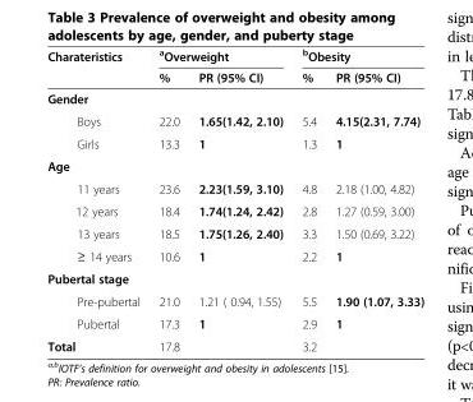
<table><thead><tr><td rowspan="2">Charateristics</td><td colspan="2"><sup>a</sup>Overweight</td><td colspan="2"><sup>b</sup>Obesity</td></tr><tr><td>%</td><td>PR (95% CI)</td><td>%</td><td>PR (95% CI)</td></tr></thead><tbody><tr><td colspan="5">Gender</td></tr><tr><td>Boys</td><td>22.0</td><td>1.65(1.42, 2.10)</td><td>5.4</td><td>4.15(2.31, 7.74)</td></tr><tr><td>Girls</td><td>13.3</td><td>1</td><td>1.3</td><td>1</td></tr><tr><td colspan="5">Age</td></tr><tr><td>11 years</td><td>23.6</td><td>2.23(1.59, 3.10)</td><td>4.8</td><td>2.18 (1.00, 4.82)</td></tr><tr><td>12 years</td><td>18.4</td><td>1.74(1.24, 2.42)</td><td>2.8</td><td>1.27 (0.59, 3.00)</td></tr><tr><td>13 years</td><td>18.5</td><td>1.75(1.26, 2.40)</td><td>3.3</td><td>1.50 (0.69, 3.22)</td></tr><tr><td>≥ 14 years</td><td>10.6</td><td>1</td><td>2.2</td><td>1</td></tr><tr><td colspan="5">Pubertal stage</td></tr><tr><td>Pre-pubertal</td><td>21.0</td><td>1.21 ( 0.94, 1.55)</td><td>5.5</td><td>1.90 (1.07, 3.33)</td></tr><tr><td>Pubertal</td><td>17.3</td><td>1</td><td>2.9</td><td>1</td></tr><tr><td>Total</td><td>17.8</td><td></td><td>3.2</td><td></td></tr></tbody></table>